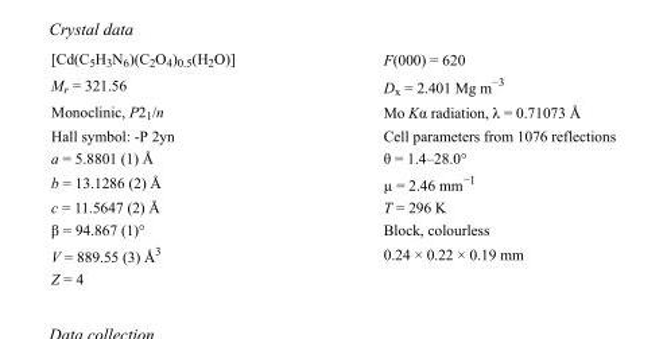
<table><tbody><tr><td>[Cd(C<sub>5</sub>H<sub>3</sub>N<sub>6</sub>)(C<sub>2</sub>O<sub>4</sub>)<sub>0.5</sub>(H<sub>2</sub>O)]</td><td>F(000) = 620</td></tr><tr><td>M<sub>r</sub> = 321.56</td><td>D<sub>x</sub> = 2.401 Mg m<sup>−3</sup></td></tr><tr><td>Monoclinic, P2<sub>1</sub>/n</td><td>Mo Kα radiation, λ = 0.71073 Å</td></tr><tr><td>Hall symbol: -P 2yn</td><td>Cell parameters from 1076 reflections</td></tr><tr><td>a = 5.8801 (1) Å</td><td>θ = 1.4–28.0°</td></tr><tr><td>b = 13.1286 (2) Å</td><td>µ = 2.46 mm<sup>−1</sup></td></tr><tr><td>c = 11.5647 (2) Å</td><td>T = 296 K</td></tr><tr><td>β = 94.867 (1)°</td><td>Block, colourless</td></tr><tr><td>V = 889.55 (3) Å<sup>3</sup></td><td>0.24 × 0.22 × 0.19 mm</td></tr><tr><td>Z = 4</td><td></td></tr></tbody></table>